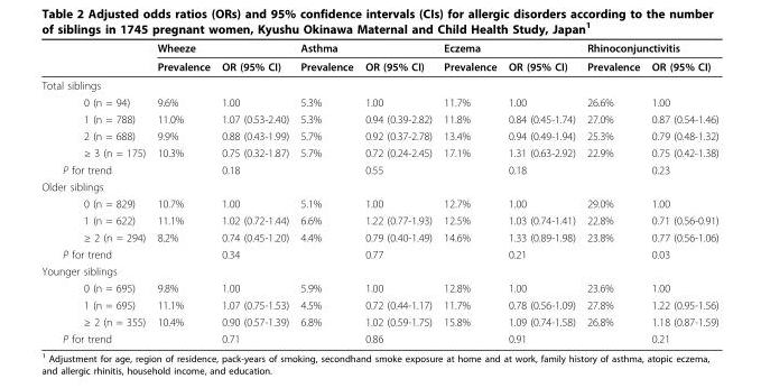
<table><thead><tr><td rowspan="2"></td><td colspan="2">Wheeze</td><td colspan="2">Asthma</td><td colspan="2">Eczema</td><td colspan="2">Rhinoconjunctivitis</td></tr><tr><td>Prevalence</td><td>OR (95% CI)</td><td>Prevalence</td><td>OR (95% CI)</td><td>Prevalence</td><td>OR (95% CI)</td><td>Prevalence</td><td>OR (95% CI)</td></tr></thead><tbody><tr><td colspan="9">Total siblings</td></tr><tr><td>0 (n = 94)</td><td>9.6%</td><td>1.00</td><td>5.3%</td><td>1.00</td><td>11.7%</td><td>1.00</td><td>26.6%</td><td>1.00</td></tr><tr><td>1 (n = 788)</td><td>11.0%</td><td>1.07 (0.53-2.40)</td><td>5.3%</td><td>0.94 (0.39-2.82)</td><td>11.8%</td><td>0.84 (0.45-1.74)</td><td>27.0%</td><td>0.87 (0.54-1.46)</td></tr><tr><td>2 (n = 688)</td><td>9.9%</td><td>0.88 (0.43-1.99)</td><td>5.7%</td><td>0.92 (0.37-2.78)</td><td>13.4%</td><td>0.94 (0.49-1.94)</td><td>25.3%</td><td>0.79 (0.48-1.32)</td></tr><tr><td>≥ 3 (n = 175)</td><td>10.3%</td><td>0.75 (0.32-1.87)</td><td>5.7%</td><td>0.72 (0.24-2.45)</td><td>17.1%</td><td>1.31 (0.63-2.92)</td><td>22.9%</td><td>0.75 (0.42-1.38)</td></tr><tr><td colspan="2">P for trend</td><td>0.18</td><td></td><td>0.55</td><td></td><td>0.18</td><td></td><td>0.23</td></tr><tr><td colspan="9">Older siblings</td></tr><tr><td>0 (n = 829)</td><td>10.7%</td><td>1.00</td><td>5.1%</td><td>1.00</td><td>12.7%</td><td>1.00</td><td>29.0%</td><td>1.00</td></tr><tr><td>1 (n = 622)</td><td>11.1%</td><td>1.02 (0.72-1.44)</td><td>6.6%</td><td>1.22 (0.77-1.93)</td><td>12.5%</td><td>1.03 (0.74-1.41)</td><td>22.8%</td><td>0.71 (0.56-0.91)</td></tr><tr><td>≥ 2 (n = 294)</td><td>8.2%</td><td>0.74 (0.45-1.20)</td><td>4.4%</td><td>0.79 (0.40-1.49)</td><td>14.6%</td><td>1.33 (0.89-1.98)</td><td>23.8%</td><td>0.77 (0.56-1.06)</td></tr><tr><td colspan="2">P for trend</td><td>0.34</td><td></td><td>0.77</td><td></td><td>0.21</td><td></td><td>0.03</td></tr><tr><td colspan="9">Younger siblings</td></tr><tr><td>0 (n = 695)</td><td>9.8%</td><td>1.00</td><td>5.9%</td><td>1.00</td><td>12.8%</td><td>1.00</td><td>23.6%</td><td>1.00</td></tr><tr><td>1 (n = 695)</td><td>11.1%</td><td>1.07 (0.75-1.53)</td><td>4.5%</td><td>0.72 (0.44-1.17)</td><td>11.7%</td><td>0.78 (0.56-1.09)</td><td>27.8%</td><td>1.22 (0.95-1.56)</td></tr><tr><td>≥ 2 (n = 355)</td><td>10.4%</td><td>0.90 (0.57-1.39)</td><td>6.8%</td><td>1.02 (0.59-1.75)</td><td>15.8%</td><td>1.09 (0.74-1.58)</td><td>26.8%</td><td>1.18 (0.87-1.59)</td></tr><tr><td colspan="2">P for trend</td><td>0.71</td><td></td><td>0.86</td><td></td><td>0.91</td><td></td><td>0.21</td></tr></tbody></table>